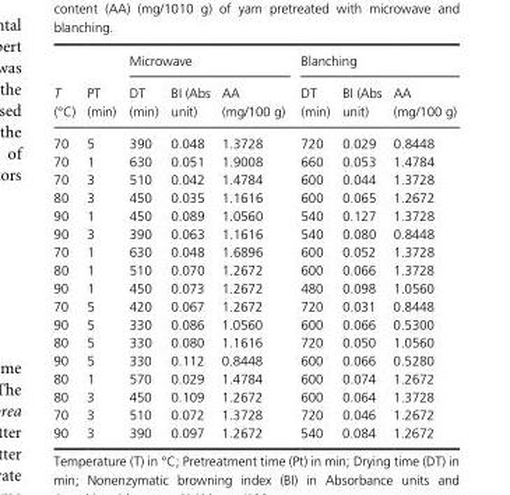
<table><thead><tr><td rowspan="2">T (°C)</td><td rowspan="2">PT (min)</td><td colspan="3">Microwave</td><td colspan="3">Blanching</td></tr><tr><td>DT (min)</td><td>BI (Abs unit)</td><td>AA (mg/100 g)</td><td>DT (min)</td><td>BI (Abs unit)</td><td>AA (mg/100 g)</td></tr></thead><tbody><tr><td>70</td><td>5</td><td>390</td><td>0.048</td><td>1.3728</td><td>720</td><td>0.029</td><td>0.8448</td></tr><tr><td>70</td><td>1</td><td>630</td><td>0.051</td><td>1.9008</td><td>660</td><td>0.053</td><td>1.4784</td></tr><tr><td>70</td><td>3</td><td>510</td><td>0.042</td><td>1.4784</td><td>600</td><td>0.044</td><td>1.3728</td></tr><tr><td>80</td><td>3</td><td>450</td><td>0.035</td><td>1.1616</td><td>600</td><td>0.065</td><td>1.2672</td></tr><tr><td>90</td><td>1</td><td>450</td><td>0.089</td><td>1.0560</td><td>540</td><td>0.127</td><td>1.3728</td></tr><tr><td>90</td><td>3</td><td>390</td><td>0.063</td><td>1.1616</td><td>540</td><td>0.080</td><td>0.8448</td></tr><tr><td>70</td><td>1</td><td>630</td><td>0.048</td><td>1.6896</td><td>600</td><td>0.052</td><td>1.3728</td></tr><tr><td>80</td><td>1</td><td>510</td><td>0.070</td><td>1.2672</td><td>600</td><td>0.066</td><td>1.3728</td></tr><tr><td>90</td><td>1</td><td>450</td><td>0.073</td><td>1.2672</td><td>480</td><td>0.098</td><td>1.0560</td></tr><tr><td>70</td><td>5</td><td>420</td><td>0.067</td><td>1.2672</td><td>720</td><td>0.031</td><td>0.8448</td></tr><tr><td>90</td><td>5</td><td>330</td><td>0.086</td><td>1.0560</td><td>600</td><td>0.066</td><td>0.5300</td></tr><tr><td>80</td><td>5</td><td>330</td><td>0.080</td><td>1.1616</td><td>720</td><td>0.050</td><td>1.0560</td></tr><tr><td>90</td><td>5</td><td>330</td><td>0.112</td><td>0.8448</td><td>600</td><td>0.066</td><td>0.5280</td></tr><tr><td>80</td><td>1</td><td>570</td><td>0.029</td><td>1.4784</td><td>600</td><td>0.074</td><td>1.2672</td></tr><tr><td>80</td><td>3</td><td>450</td><td>0.109</td><td>1.2672</td><td>600</td><td>0.064</td><td>1.3728</td></tr><tr><td>70</td><td>3</td><td>510</td><td>0.072</td><td>1.3728</td><td>720</td><td>0.046</td><td>1.2672</td></tr><tr><td>90</td><td>3</td><td>390</td><td>0.097</td><td>1.2672</td><td>540</td><td>0.084</td><td>1.2672</td></tr></tbody></table>